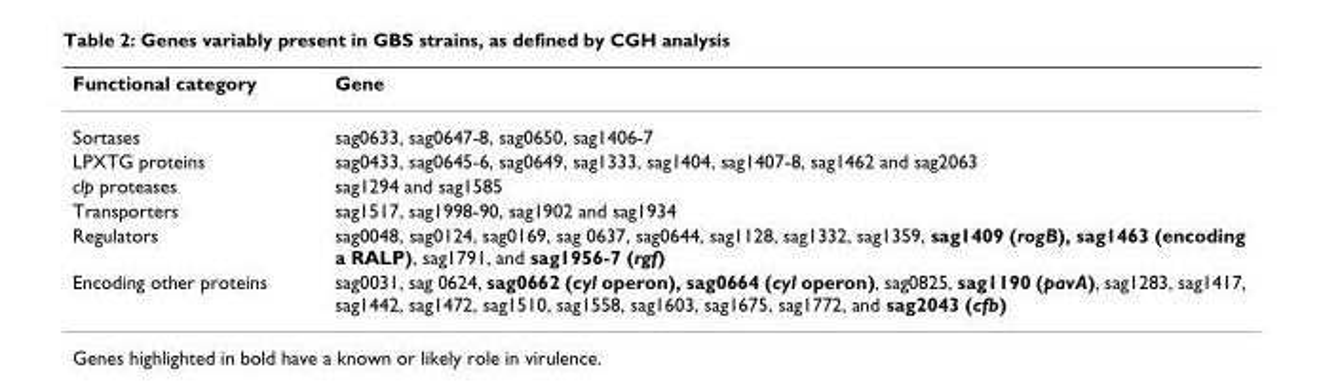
<table><thead><tr><td>Functional category</td><td>Gene</td></tr></thead><tbody><tr><td>Sortases</td><td>sag0633, sag0647-8, sag0650, sag1406-7</td></tr><tr><td>LPXTG proteins</td><td>sag0433, sag0645-6, sag0649, sag1333, sag1404, sag1407-8, sag1462 and sag2063</td></tr><tr><td>clp proteases</td><td>sag1294 and sag1585</td></tr><tr><td>Transporters</td><td>sag1517, sag1998-90, sag1902 and sag1934</td></tr><tr><td>Regulators</td><td>sag0048, sag0124, sag0169, sag 0637, sag0644, sag1128, sag1332, sag1359, sag1409 (rogB), sag1463 (encoding a RALP), sag1791, and sag1956-7 (rgf)</td></tr><tr><td>Encoding other proteins</td><td>sag0031, sag 0624, sag0662 (cyl operon), sag0664 (cyl operon), sag0825, sag1190 (pavA), sag1283, sag1417, sag1442, sag1472, sag1510, sag1558, sag1603, sag1675, sag1772, and sag2043 (cfb)</td></tr></tbody></table>